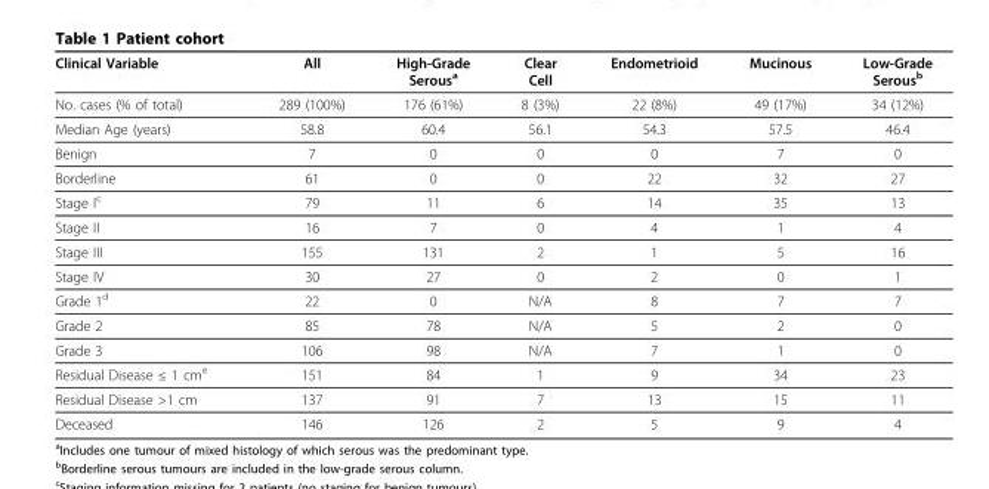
<table><thead><tr><td>Clinical Variable</td><td>All</td><td>High-Grade Serous<sup>a</sup></td><td>Clear Cell</td><td>Endometrioid</td><td>Mucinous</td><td>Low-Grade Serous<sup>b</sup></td></tr></thead><tbody><tr><td>No. cases (% of total)</td><td>289 (100%)</td><td>176 (61%)</td><td>8 (3%)</td><td>22 (8%)</td><td>49 (17%)</td><td>34 (12%)</td></tr><tr><td>Median Age (years)</td><td>58.8</td><td>60.4</td><td>56.1</td><td>54.3</td><td>57.5</td><td>46.4</td></tr><tr><td>Benign</td><td>7</td><td>0</td><td>0</td><td>0</td><td>7</td><td>0</td></tr><tr><td>Borderline</td><td>61</td><td>0</td><td>0</td><td>22</td><td>32</td><td>27</td></tr><tr><td>Stage I<sup>c</sup></td><td>79</td><td>11</td><td>6</td><td>14</td><td>35</td><td>13</td></tr><tr><td>Stage II</td><td>16</td><td>7</td><td>0</td><td>4</td><td>1</td><td>4</td></tr><tr><td>Stage III</td><td>155</td><td>131</td><td>2</td><td>1</td><td>5</td><td>16</td></tr><tr><td>Stage IV</td><td>30</td><td>27</td><td>0</td><td>2</td><td>0</td><td>1</td></tr><tr><td>Grade 1<sup>d</sup></td><td>22</td><td>0</td><td>N/A</td><td>8</td><td>7</td><td>7</td></tr><tr><td>Grade 2</td><td>85</td><td>78</td><td>N/A</td><td>5</td><td>2</td><td>0</td></tr><tr><td>Grade 3</td><td>106</td><td>98</td><td>N/A</td><td>7</td><td>1</td><td>0</td></tr><tr><td>Residual Disease ≤ 1 cm<sup>e</sup></td><td>151</td><td>84</td><td>1</td><td>9</td><td>34</td><td>23</td></tr><tr><td>Residual Disease &gt;1 cm</td><td>137</td><td>91</td><td>7</td><td>13</td><td>15</td><td>11</td></tr><tr><td>Deceased</td><td>146</td><td>126</td><td>2</td><td>5</td><td>9</td><td>4</td></tr></tbody></table>